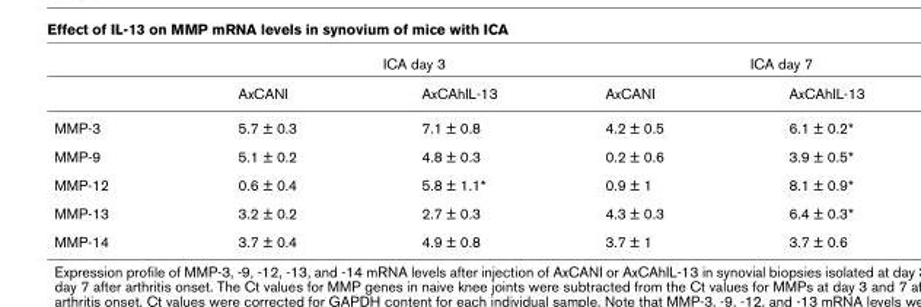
<table><thead><tr><td rowspan="2"></td><td colspan="2">ICA day 3</td><td colspan="2">ICA day 7</td></tr><tr><td>AxCANI</td><td>AxCAhIL-13</td><td>AxCANI</td><td>AxCAhIL-13</td></tr></thead><tbody><tr><td>MMP-3</td><td>5.7 ± 0.3</td><td>7.1 ± 0.8</td><td>4.2 ± 0.5</td><td>6.1 ± 0.2*</td></tr><tr><td>MMP-9</td><td>5.1 ± 0.2</td><td>4.8 ± 0.3</td><td>0.2 ± 0.6</td><td>3.9 ± 0.5*</td></tr><tr><td>MMP-12</td><td>0.6 ± 0.4</td><td>5.8 ± 1.1*</td><td>0.9 ± 1</td><td>8.1 ± 0.9*</td></tr><tr><td>MMP-13</td><td>3.2 ± 0.2</td><td>2.7 ± 0.3</td><td>4.3 ± 0.3</td><td>6.4 ± 0.3*</td></tr><tr><td>MMP-14</td><td>3.7 ± 0.4</td><td>4.9 ± 0.8</td><td>3.7 ± 1</td><td>3.7 ± 0.6</td></tr></tbody></table>